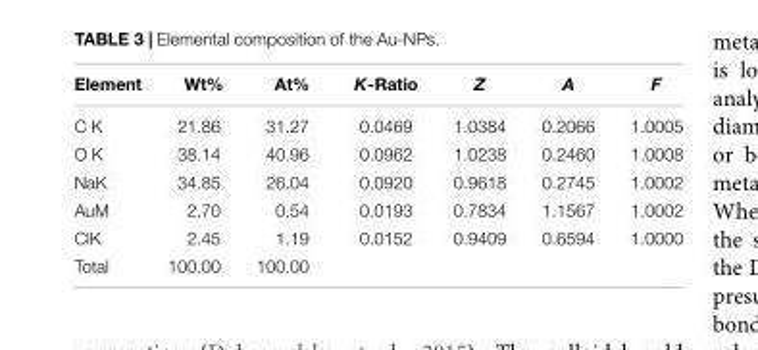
<table><thead><tr><td>Element</td><td>Wt%</td><td>At%</td><td>K-Ratio</td><td>Z</td><td>A</td><td>F</td></tr></thead><tbody><tr><td>C K</td><td>21.86</td><td>31.27</td><td>0.0469</td><td>1.0384</td><td>0.2066</td><td>1.0005</td></tr><tr><td>O K</td><td>38.14</td><td>40.96</td><td>0.0962</td><td>1.0238</td><td>0.2460</td><td>1.0008</td></tr><tr><td>NaK</td><td>34.85</td><td>26.04</td><td>0.0920</td><td>0.9618</td><td>0.2745</td><td>1.0002</td></tr><tr><td>AuM</td><td>2.70</td><td>0.54</td><td>0.0193</td><td>0.7834</td><td>1.1567</td><td>1.0002</td></tr><tr><td>ClK</td><td>2.45</td><td>1.19</td><td>0.0152</td><td>0.9409</td><td>0.6594</td><td>1.0000</td></tr><tr><td>Total</td><td>100.00</td><td>100.00</td><td></td><td></td><td></td><td></td></tr></tbody></table>